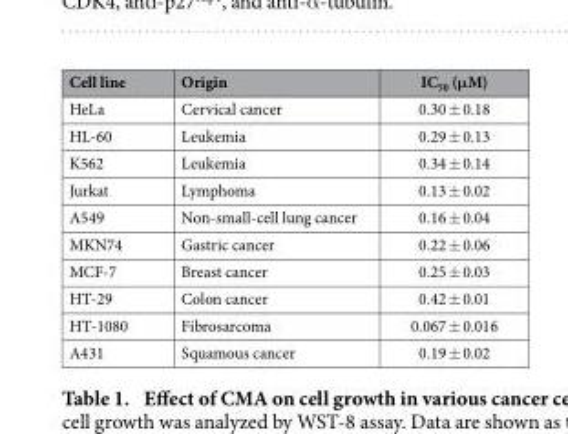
<table><thead><tr><td>Cell line</td><td>Origin</td><td>IC<sub>50</sub> (μM)</td></tr></thead><tbody><tr><td>HeLa</td><td>Cervical cancer</td><td>0.30 ± 0.18</td></tr><tr><td>HL-60</td><td>Leukemia</td><td>0.29 ± 0.13</td></tr><tr><td>K562</td><td>Leukemia</td><td>0.34 ± 0.14</td></tr><tr><td>Jurkat</td><td>Lymphoma</td><td>0.13 ± 0.02</td></tr><tr><td>A549</td><td>Non-small-cell lung cancer</td><td>0.16 ± 0.04</td></tr><tr><td>MKN74</td><td>Gastric cancer</td><td>0.22 ± 0.06</td></tr><tr><td>MCF-7</td><td>Breast cancer</td><td>0.25 ± 0.03</td></tr><tr><td>HT-29</td><td>Colon cancer</td><td>0.42 ± 0.01</td></tr><tr><td>HT-1080</td><td>Fibrosarcoma</td><td>0.067 ± 0.016</td></tr><tr><td>A431</td><td>Squamous cancer</td><td>0.19 ± 0.02</td></tr></tbody></table>